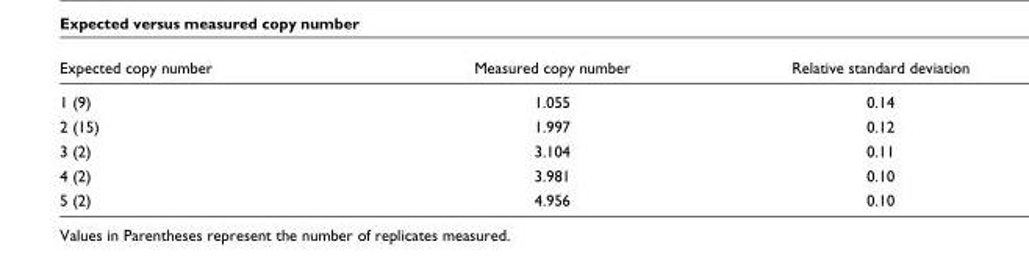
<table><thead><tr><td>Expected copy number</td><td>Measured copy number</td><td>Relative standard deviation</td></tr></thead><tbody><tr><td>1 (9)</td><td>1.055</td><td>0.14</td></tr><tr><td>2 (15)</td><td>1.997</td><td>0.12</td></tr><tr><td>3 (2)</td><td>3.104</td><td>0.11</td></tr><tr><td>4 (2)</td><td>3.981</td><td>0.10</td></tr><tr><td>5 (2)</td><td>4.956</td><td>0.10</td></tr></tbody></table>